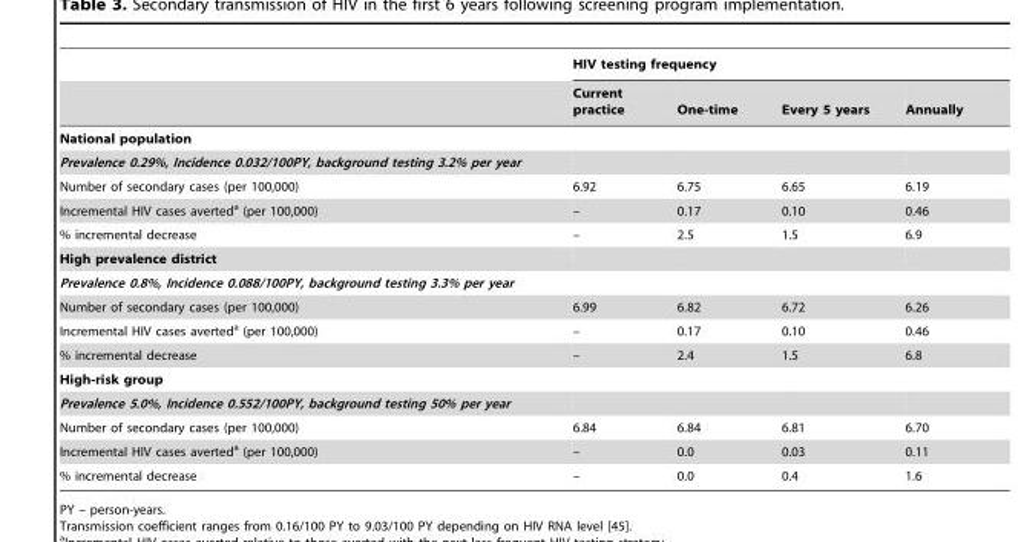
<table><thead><tr><td rowspan="2"></td><td colspan="4">HIV testing frequency</td></tr><tr><td>Current practice</td><td>One-time</td><td>Every 5 years</td><td>Annually</td></tr></thead><tbody><tr><td colspan="5">National population</td></tr><tr><td colspan="5">Prevalence 0.29%, Incidence 0.032/100PY, background testing 3.2% per year</td></tr><tr><td>Number of secondary cases (per 100,000)</td><td>6.92</td><td>6.75</td><td>6.65</td><td>6.19</td></tr><tr><td>Incremental HIV cases averted<sup>a</sup> (per 100,000)</td><td>–</td><td>0.17</td><td>0.10</td><td>0.46</td></tr><tr><td>% incremental decrease</td><td>–</td><td>2.5</td><td>1.5</td><td>6.9</td></tr><tr><td colspan="5">High prevalence district</td></tr><tr><td colspan="5">Prevalence 0.8%, Incidence 0.088/100PY, background testing 3.3% per year</td></tr><tr><td>Number of secondary cases (per 100,000)</td><td>6.99</td><td>6.82</td><td>6.72</td><td>6.26</td></tr><tr><td>Incremental HIV cases averted<sup>a</sup> (per 100,000)</td><td>–</td><td>0.17</td><td>0.10</td><td>0.46</td></tr><tr><td>% incremental decrease</td><td>–</td><td>2.4</td><td>1.5</td><td>6.8</td></tr><tr><td colspan="5">High-risk group</td></tr><tr><td colspan="5">Prevalence 5.0%, Incidence 0.552/100PY, background testing 50% per year</td></tr><tr><td>Number of secondary cases (per 100,000)</td><td>6.84</td><td>6.84</td><td>6.81</td><td>6.70</td></tr><tr><td>Incremental HIV cases averted<sup>a</sup> (per 100,000)</td><td>–</td><td>0.0</td><td>0.03</td><td>0.11</td></tr><tr><td>% incremental decrease</td><td>–</td><td>0.0</td><td>0.4</td><td>1.6</td></tr></tbody></table>